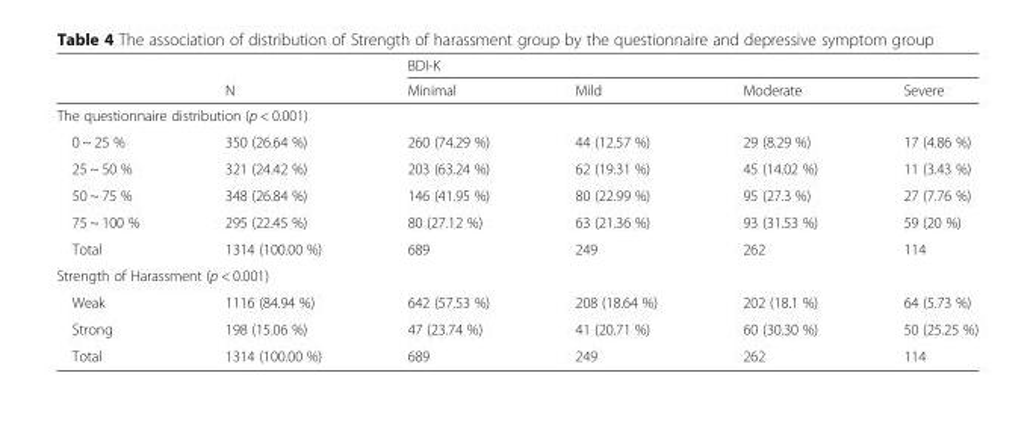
<table><thead><tr><td rowspan="2"></td><td rowspan="2">N</td><td colspan="4">BDI-K</td></tr><tr><td>Minimal</td><td>Mild</td><td>Moderate</td><td>Severe</td></tr></thead><tbody><tr><td colspan="6">The questionnaire distribution (p &lt; 0.001)</td></tr><tr><td>0 ~ 25 %</td><td>350 (26.64 %)</td><td>260 (74.29 %)</td><td>44 (12.57 %)</td><td>29 (8.29 %)</td><td>17 (4.86 %)</td></tr><tr><td>25 ~ 50 %</td><td>321 (24.42 %)</td><td>203 (63.24 %)</td><td>62 (19.31 %)</td><td>45 (14.02 %)</td><td>11 (3.43 %)</td></tr><tr><td>50 ~ 75 %</td><td>348 (26.84 %)</td><td>146 (41.95 %)</td><td>80 (22.99 %)</td><td>95 (27.3 %)</td><td>27 (7.76 %)</td></tr><tr><td>75 ~ 100 %</td><td>295 (22.45 %)</td><td>80 (27.12 %)</td><td>63 (21.36 %)</td><td>93 (31.53 %)</td><td>59 (20 %)</td></tr><tr><td>Total</td><td>1314 (100.00 %)</td><td>689</td><td>249</td><td>262</td><td>114</td></tr><tr><td colspan="6">Strength of Harassment (p &lt; 0.001)</td></tr><tr><td>Weak</td><td>1116 (84.94 %)</td><td>642 (57.53 %)</td><td>208 (18.64 %)</td><td>202 (18.1 %)</td><td>64 (5.73 %)</td></tr><tr><td>Strong</td><td>198 (15.06 %)</td><td>47 (23.74 %)</td><td>41 (20.71 %)</td><td>60 (30.30 %)</td><td>50 (25.25 %)</td></tr><tr><td>Total</td><td>1314 (100.00 %)</td><td>689</td><td>249</td><td>262</td><td>114</td></tr></tbody></table>